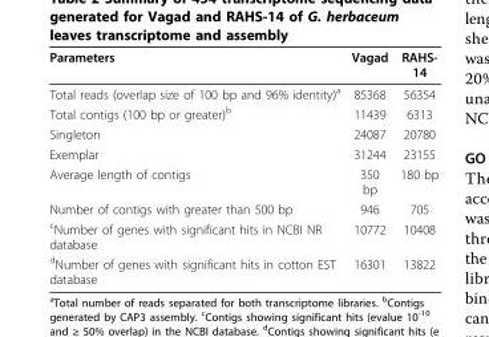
<table><thead><tr><td>Parameters</td><td>Vagad</td><td>RAHS- 14</td></tr></thead><tbody><tr><td>Total reads (overlap size of 100 bp and 96% identity)<sup>a</sup></td><td>85368</td><td>56354</td></tr><tr><td>Total contigs (100 bp or greater)<sup>b</sup></td><td>11439</td><td>6313</td></tr><tr><td>Singleton</td><td>24087</td><td>20780</td></tr><tr><td>Exemplar</td><td>31244</td><td>23155</td></tr><tr><td>Average length of contigs</td><td>350 bp</td><td>180 bp</td></tr><tr><td>Number of contigs with greater than 500 bp</td><td>946</td><td>705</td></tr><tr><td><sup>c</sup>Number of genes with significant hits in NCBI NR database</td><td>10772</td><td>10408</td></tr><tr><td><sup>d</sup>Number of genes with significant hits in cotton EST database</td><td>16301</td><td>13822</td></tr></tbody></table>